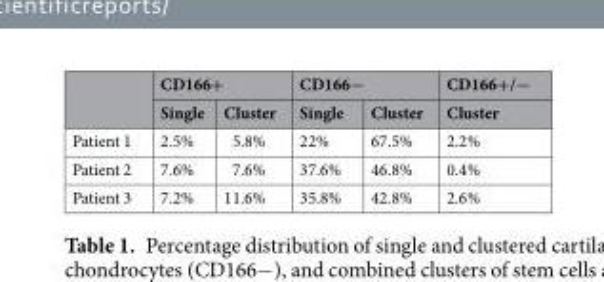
<table><thead><tr><td rowspan="2"></td><td colspan="2">CD166+</td><td colspan="2">CD166−</td><td rowspan="2">CD166+/− Cluster</td></tr><tr><td>Single</td><td>Cluster</td><td>Single</td><td>Cluster</td></tr></thead><tbody><tr><td>Patient 1</td><td>2.5%</td><td>5.8%</td><td>22%</td><td>67.5%</td><td>2.2%</td></tr><tr><td>Patient 2</td><td>7.6%</td><td>7.6%</td><td>37.6%</td><td>46.8%</td><td>0.4%</td></tr><tr><td>Patient 3</td><td>7.2%</td><td>11.6%</td><td>35.8%</td><td>42.8%</td><td>2.6%</td></tr></tbody></table>